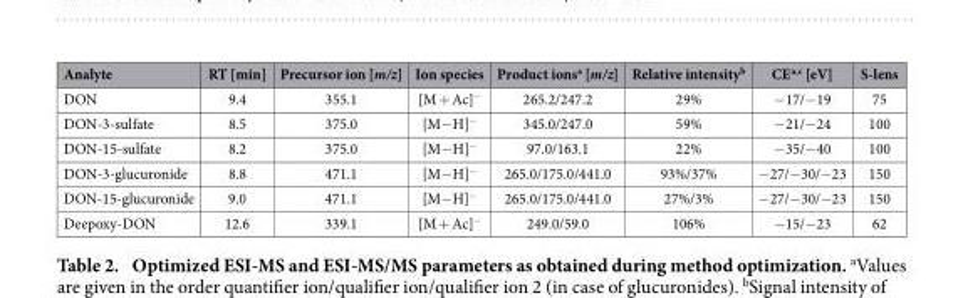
<table><thead><tr><td>Analyte</td><td>RT [min]</td><td>Precursor ion [m/z]</td><td>Ion species</td><td>Product ions<sup>a</sup> [m/z]</td><td>Relative intensity<sup>b</sup></td><td>CE<sup>a,c</sup> [eV]</td><td>S-lens</td></tr></thead><tbody><tr><td>DON</td><td>9.4</td><td>355.1</td><td>[M + Ac]<sup>−</sup></td><td>265.2/247.2</td><td>29%</td><td>− 17/− 19</td><td>75</td></tr><tr><td>DON-3-sulfate</td><td>8.5</td><td>375.0</td><td>[M− H]<sup>−</sup></td><td>345.0/247.0</td><td>59%</td><td>− 21/− 24</td><td>100</td></tr><tr><td>DON-15-sulfate</td><td>8.2</td><td>375.0</td><td>[M− H]<sup>−</sup></td><td>97.0/163.1</td><td>22%</td><td>− 35/− 40</td><td>100</td></tr><tr><td>DON-3-glucuronide</td><td>8.8</td><td>471.1</td><td>[M− H]<sup>−</sup></td><td>265.0/175.0/441.0</td><td>93%/37%</td><td>− 27/− 30/− 23</td><td>150</td></tr><tr><td>DON-15-glucuronide</td><td>9.0</td><td>471.1</td><td>[M− H]<sup>−</sup></td><td>265.0/175.0/441.0</td><td>27%/3%</td><td>− 27/− 30/− 23</td><td>150</td></tr><tr><td>Deepoxy-DON</td><td>12.6</td><td>339.1</td><td>[M + Ac]<sup>−</sup></td><td>249.0/59.0</td><td>106%</td><td>− 15/− 23</td><td>62</td></tr></tbody></table>